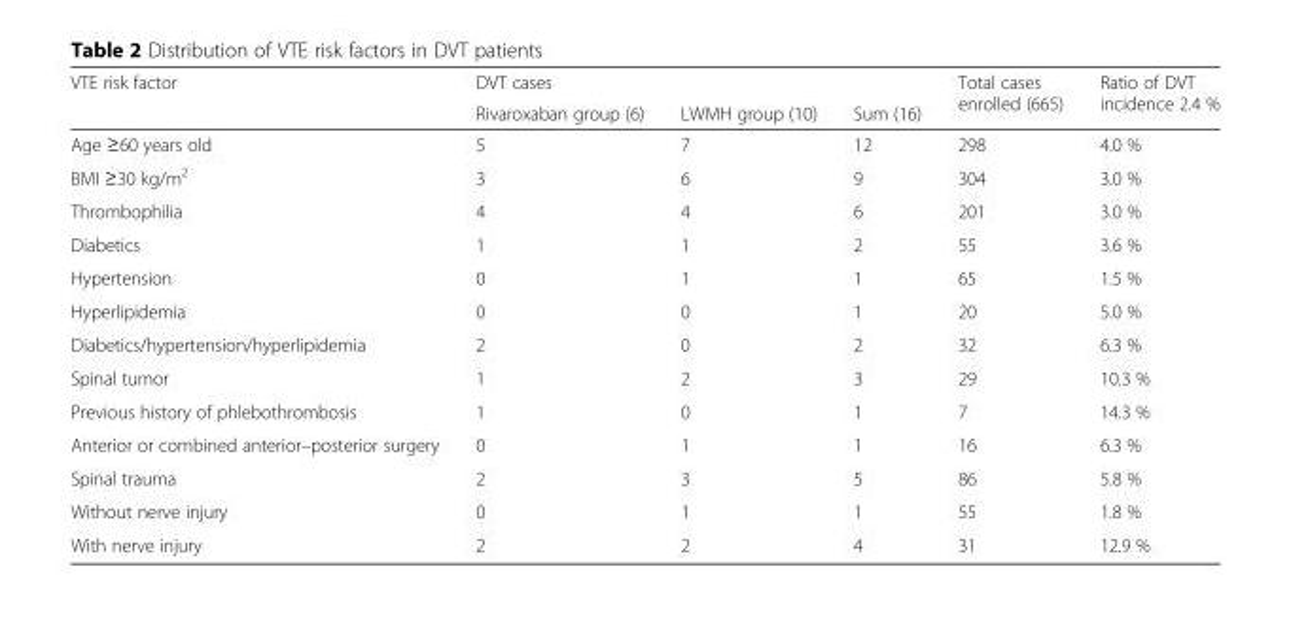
<table><thead><tr><td rowspan="2">VTE risk factor</td><td colspan="3">DVT cases</td><td rowspan="2">Total cases enrolled (665)</td><td rowspan="2">Ratio of DVT incidence 2.4 %</td></tr><tr><td>Rivaroxaban group (6)</td><td>LWMH group (10)</td><td>Sum (16)</td></tr></thead><tbody><tr><td>Age ≥60 years old</td><td>5</td><td>7</td><td>12</td><td>298</td><td>4.0 %</td></tr><tr><td>BMI ≥30 kg/m<sup>2</sup></td><td>3</td><td>6</td><td>9</td><td>304</td><td>3.0 %</td></tr><tr><td>Thrombophilia</td><td>4</td><td>4</td><td>6</td><td>201</td><td>3.0 %</td></tr><tr><td>Diabetics</td><td>1</td><td>1</td><td>2</td><td>55</td><td>3.6 %</td></tr><tr><td>Hypertension</td><td>0</td><td>1</td><td>1</td><td>65</td><td>1.5 %</td></tr><tr><td>Hyperlipidemia</td><td>0</td><td>0</td><td>1</td><td>20</td><td>5.0 %</td></tr><tr><td>Diabetics/hypertension/hyperlipidemia</td><td>2</td><td>0</td><td>2</td><td>32</td><td>6.3 %</td></tr><tr><td>Spinal tumor</td><td>1</td><td>2</td><td>3</td><td>29</td><td>10.3 %</td></tr><tr><td>Previous history of phlebothrombosis</td><td>1</td><td>0</td><td>1</td><td>7</td><td>14.3 %</td></tr><tr><td>Anterior or combined anterior–posterior surgery</td><td>0</td><td>1</td><td>1</td><td>16</td><td>6.3 %</td></tr><tr><td>Spinal trauma</td><td>2</td><td>3</td><td>5</td><td>86</td><td>5.8 %</td></tr><tr><td>Without nerve injury</td><td>0</td><td>1</td><td>1</td><td>55</td><td>1.8 %</td></tr><tr><td>With nerve injury</td><td>2</td><td>2</td><td>4</td><td>31</td><td>12.9 %</td></tr></tbody></table>